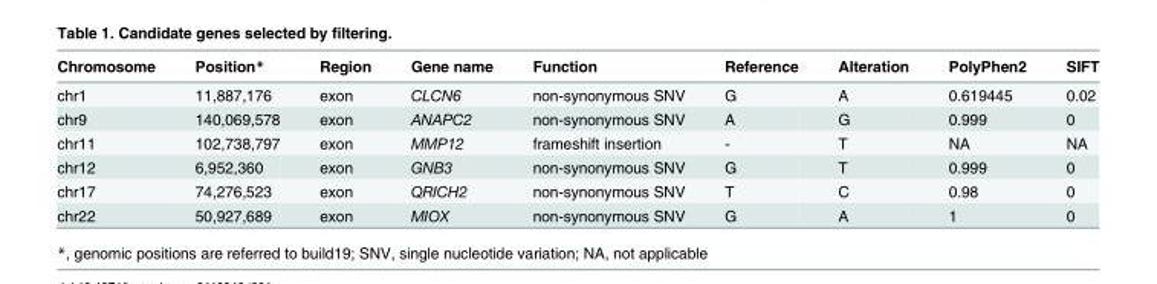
<table><thead><tr><td>Chromosome</td><td>Position*</td><td>Region</td><td>Gene name</td><td>Function</td><td>Reference</td><td>Alteration</td><td>PolyPhen2</td><td>SIFT</td></tr></thead><tbody><tr><td>chr1</td><td>11,887,176</td><td>exon</td><td>CLCN6</td><td>non-synonymous SNV</td><td>G</td><td>A</td><td>0.619445</td><td>0.02</td></tr><tr><td>chr9</td><td>140,069,578</td><td>exon</td><td>ANAPC2</td><td>non-synonymous SNV</td><td>A</td><td>G</td><td>0.999</td><td>0</td></tr><tr><td>chr11</td><td>102,738,797</td><td>exon</td><td>MMP12</td><td>frameshift insertion</td><td>-</td><td>T</td><td>NA</td><td>NA</td></tr><tr><td>chr12</td><td>6,952,360</td><td>exon</td><td>GNB3</td><td>non-synonymous SNV</td><td>G</td><td>T</td><td>0.999</td><td>0</td></tr><tr><td>chr17</td><td>74,276,523</td><td>exon</td><td>QRICH2</td><td>non-synonymous SNV</td><td>T</td><td>C</td><td>0.98</td><td>0</td></tr><tr><td>chr22</td><td>50,927,689</td><td>exon</td><td>MIOX</td><td>non-synonymous SNV</td><td>G</td><td>A</td><td>1</td><td>0</td></tr></tbody></table>